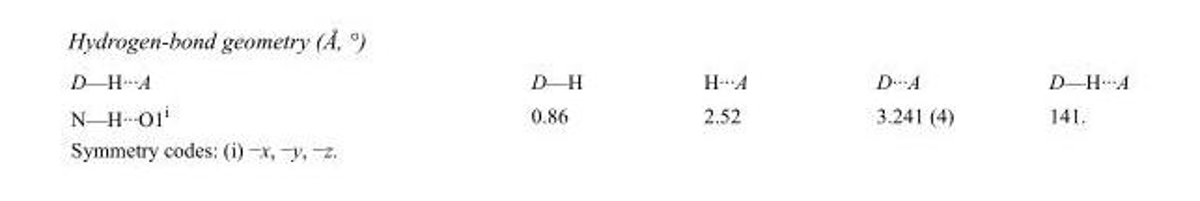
<table><tbody><tr><td>D—H···A</td><td>D—H</td><td>H···A</td><td>D···A</td><td>D—H···A</td></tr><tr><td>N—H···O1<sup>i</sup></td><td>0.86</td><td>2.52</td><td>3.241 (4)</td><td>141.</td></tr></tbody></table>